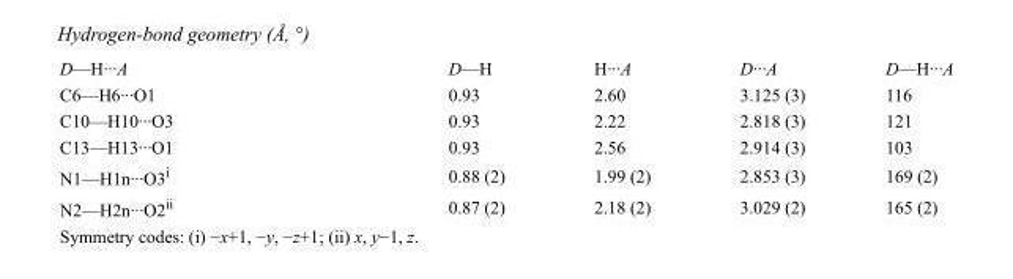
<table><tbody><tr><td>D—H···A</td><td>D—H</td><td>H···A</td><td>D···A</td><td>D—H···A</td></tr><tr><td>C6—H6···O1</td><td>0.93</td><td>2.60</td><td>3.125 (3)</td><td>116</td></tr><tr><td>C10—H10···O3</td><td>0.93</td><td>2.22</td><td>2.818 (3)</td><td>121</td></tr><tr><td>C13—H13···O1</td><td>0.93</td><td>2.56</td><td>2.914 (3)</td><td>103</td></tr><tr><td>N1—H1n···O3<sup>i</sup></td><td>0.88 (2)</td><td>1.99 (2)</td><td>2.853 (3)</td><td>169 (2)</td></tr><tr><td>N2—H2n···O2<sup>ii</sup></td><td>0.87 (2)</td><td>2.18 (2)</td><td>3.029 (2)</td><td>165 (2)</td></tr></tbody></table>